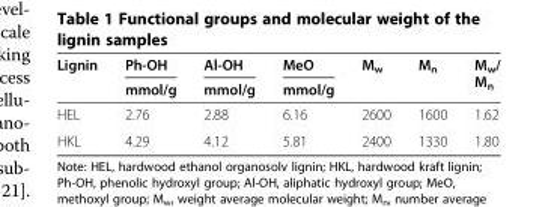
<table><thead><tr><td rowspan="2">Lignin</td><td rowspan="2">Ph-OH mmol/g</td><td rowspan="2">Al-OH mmol/g</td><td rowspan="2">MeO mmol/g</td><td rowspan="2">M<sub>w</sub></td><td rowspan="2">M<sub>n</sub></td><td rowspan="2">M<sub>w</sub>/ M<sub>n</sub></td></tr><tr></tr></thead><tbody><tr><td>HEL</td><td>2.76</td><td>2.88</td><td>6.16</td><td>2600</td><td>1600</td><td>1.62</td></tr><tr><td>HKL</td><td>4.29</td><td>4.12</td><td>5.81</td><td>2400</td><td>1330</td><td>1.80</td></tr></tbody></table>